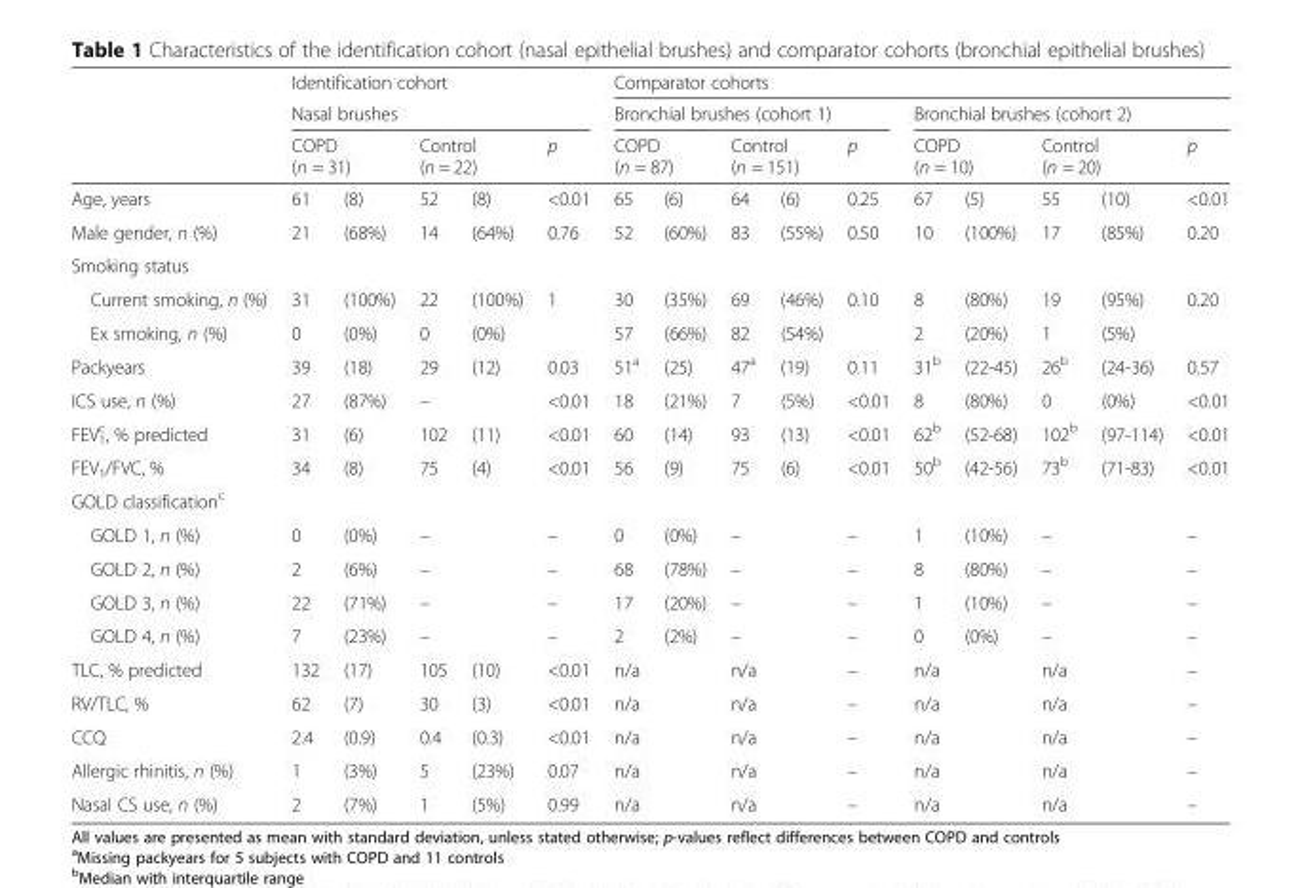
<table><thead><tr><td rowspan="4">Age, years</td><td rowspan="2" colspan="5">Identification cohort Nasal brushes</td><td colspan="10">Comparator cohorts</td></tr><tr><td colspan="5">Bronchial brushes (cohort 1)</td><td colspan="5">Bronchial brushes (cohort 2)</td></tr><tr><td colspan="2">COPD (n = 31)</td><td colspan="2">Control (n = 22)</td><td rowspan="2">p &lt;0.01</td><td colspan="2">COPD (n = 87)</td><td colspan="2">Control (n = 151)</td><td rowspan="2">p 0.25</td><td colspan="2">COPD (n = 10)</td><td colspan="2">Control (n = 20)</td><td rowspan="2">p &lt;0.01</td></tr><tr><td>61</td><td>(8)</td><td>52</td><td>(8)</td><td>65</td><td>(6)</td><td>64</td><td>(6)</td><td>67</td><td>(5)</td><td>55</td><td>(10)</td></tr></thead><tbody><tr><td>Male gender, n (%)</td><td>21</td><td>(68%)</td><td>14</td><td>(64%)</td><td>0.76</td><td>52</td><td>(60%)</td><td>83</td><td>(55%)</td><td>0.50</td><td>10</td><td>(100%)</td><td>17</td><td>(85%)</td><td>0.20</td></tr><tr><td colspan="16">Smoking status</td></tr><tr><td>Current smoking, n (%)</td><td>31</td><td>(100%)</td><td>22</td><td>(100%)</td><td rowspan="2">1</td><td>30</td><td>(35%)</td><td>69</td><td>(46%)</td><td rowspan="2">0.10</td><td>8</td><td>(80%)</td><td>19</td><td>(95%)</td><td rowspan="2">0.20</td></tr><tr><td>Ex smoking, n (%)</td><td>0</td><td>(0%)</td><td>0</td><td>(0%)</td><td>57</td><td>(66%)</td><td>82</td><td>(54%)</td><td>2</td><td>(20%)</td><td>1</td><td>(5%)</td></tr><tr><td>Packyears</td><td>39</td><td>(18)</td><td>29</td><td>(12)</td><td>0.03</td><td>51<sup>a</sup></td><td>(25)</td><td>47<sup>a</sup></td><td>(19)</td><td>0.11</td><td>31<sup>b</sup></td><td>(22-45)</td><td>26<sup>b</sup></td><td>(24-36)</td><td>0.57</td></tr><tr><td>ICS use, n (%)</td><td>27</td><td>(87%)</td><td>–</td><td></td><td>&lt;0.01</td><td>18</td><td>(21%)</td><td>7</td><td>(5%)</td><td>&lt;0.01</td><td>8</td><td>(80%)</td><td>0</td><td>(0%)</td><td>&lt;0.01</td></tr><tr><td>FEV<sub>1</sub> <sup>c</sup>, % predicted</td><td>31</td><td>(6)</td><td>102</td><td>(11)</td><td>&lt;0.01</td><td>60</td><td>(14)</td><td>93</td><td>(13)</td><td>&lt;0.01</td><td>62<sup>b</sup></td><td>(52-68)</td><td>102<sup>b</sup></td><td>(97-114)</td><td>&lt;0.01</td></tr><tr><td>FEV<sub>1</sub>/FVC, %</td><td>34</td><td>(8)</td><td>75</td><td>(4)</td><td>&lt;0.01</td><td>56</td><td>(9)</td><td>75</td><td>(6)</td><td>&lt;0.01</td><td>50<sup>b</sup></td><td>(42-56)</td><td>73<sup>b</sup></td><td>(71-83)</td><td>&lt;0.01</td></tr><tr><td colspan="16">GOLD classification<sup>c</sup></td></tr><tr><td>GOLD 1, n (%)</td><td>0</td><td>(0%)</td><td>–</td><td></td><td>–</td><td>0</td><td>(0%)</td><td>–</td><td></td><td>–</td><td>1</td><td>(10%)</td><td>–</td><td></td><td>–</td></tr><tr><td>GOLD 2, n (%)</td><td>2</td><td>(6%)</td><td>–</td><td></td><td>–</td><td>68</td><td>(78%)</td><td>–</td><td></td><td>–</td><td>8</td><td>(80%)</td><td>–</td><td></td><td>–</td></tr><tr><td>GOLD 3, n (%)</td><td>22</td><td>(71%)</td><td>–</td><td></td><td>–</td><td>17</td><td>(20%)</td><td>–</td><td></td><td>–</td><td>1</td><td>(10%)</td><td>–</td><td></td><td>–</td></tr><tr><td>GOLD 4, n (%)</td><td>7</td><td>(23%)</td><td>–</td><td></td><td>–</td><td>2</td><td>(2%)</td><td>–</td><td></td><td>–</td><td>0</td><td>(0%)</td><td>–</td><td></td><td>–</td></tr><tr><td>TLC, % predicted</td><td>132</td><td>(17)</td><td>105</td><td>(10)</td><td>&lt;0.01</td><td>n/a</td><td></td><td>n/a</td><td></td><td>–</td><td>n/a</td><td></td><td>n/a</td><td></td><td>–</td></tr><tr><td>RV/TLC, %</td><td>62</td><td>(7)</td><td>30</td><td>(3)</td><td>&lt;0.01</td><td>n/a</td><td></td><td>n/a</td><td></td><td>–</td><td>n/a</td><td></td><td>n/a</td><td></td><td>–</td></tr><tr><td>CCQ</td><td>2.4</td><td>(0.9)</td><td>0.4</td><td>(0.3)</td><td>&lt;0.01</td><td>n/a</td><td></td><td>n/a</td><td></td><td>–</td><td>n/a</td><td></td><td>n/a</td><td></td><td>–</td></tr><tr><td>Allergic rhinitis, n (%)</td><td>1</td><td>(3%)</td><td>5</td><td>(23%)</td><td>0.07</td><td>n/a</td><td></td><td>n/a</td><td></td><td>–</td><td>n/a</td><td></td><td>n/a</td><td></td><td>–</td></tr><tr><td>Nasal CS use, n (%)</td><td>2</td><td>(7%)</td><td>1</td><td>(5%)</td><td>0.99</td><td>n/a</td><td></td><td>n/a</td><td></td><td>–</td><td>n/a</td><td></td><td>n/a</td><td></td><td>–</td></tr></tbody></table>